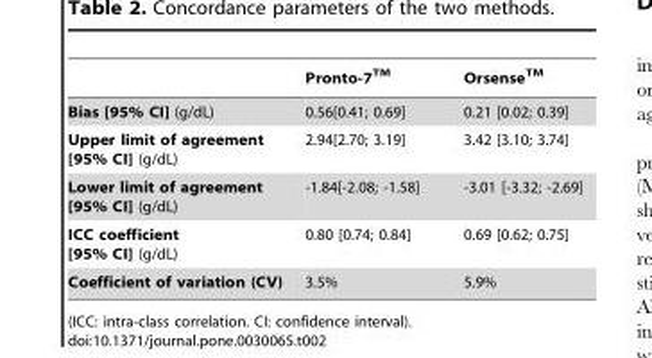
<table><thead><tr><td></td><td>Pronto-7TM</td><td>OrsenseTM</td></tr></thead><tbody><tr><td>Bias [95% CI] (g/dL)</td><td>0.56[0.41; 0.69]</td><td>0.21 [0.02; 0.39]</td></tr><tr><td>Upper limit of agreement [95% CI] (g/dL)</td><td>2.94[2.70; 3.19]</td><td>3.42 [3.10; 3.74]</td></tr><tr><td>Lower limit of agreement [95% CI] (g/dL)</td><td>-1.84[-2.08; -1.58]</td><td>-3.01 [-3.32; -2.69]</td></tr><tr><td>ICC coefficient [95% CI] (g/dL)</td><td>0.80 [0.74; 0.84]</td><td>0.69 [0.62; 0.75]</td></tr><tr><td>Coefficient of variation (CV)</td><td>3.5%</td><td>5.9%</td></tr></tbody></table>